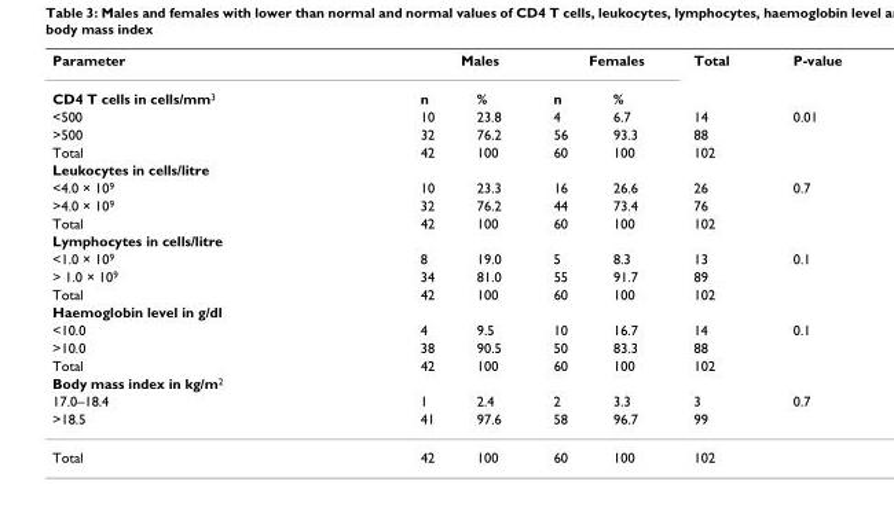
<table><thead><tr><td rowspan="20">Parameter CD4 T cells in cells/mm3 &lt;500 &gt;500 Total Leukocytes in cells/litre &lt;4.0 × 109 &gt;4.0 × 109 Total Lymphocytes in cells/litre &lt;1.0 × 109 &gt; 1.0 × 109 Total Haemoglobin level in g/dl &lt;10.0 &gt;10.0 Total Body mass index in kg/m2 17.0–18.4 &gt;18.5</td><td colspan="2">Males</td><td colspan="2">Females</td><td rowspan="20">Total 14 88 102 26 76 102 13 89 102 14 88 102 3 99</td><td rowspan="20">P-value 0.01 0.7 0.1 0.1 0.7</td></tr><tr><td rowspan="19">n 10 32 42 10 32 42 8 34 42 4 38 42 1 41</td><td rowspan="19">% 23.8 76.2 100 23.3 76.2 100 19.0 81.0 100 9.5 90.5 100 2.4 97.6</td><td rowspan="19">n 4 56 60 16 44 60 5 55 60 10 50 60 2 58</td><td rowspan="19">% 6.7 93.3 100 26.6 73.4 100 8.3 91.7 100 16.7 83.3 100 3.3 96.7</td></tr><tr></tr><tr></tr><tr></tr><tr></tr><tr></tr><tr></tr><tr></tr><tr></tr><tr></tr><tr></tr><tr></tr><tr></tr><tr></tr><tr></tr><tr></tr><tr></tr><tr></tr><tr></tr></thead><tbody><tr><td>Total</td><td>42</td><td>100</td><td>60</td><td>100</td><td>102</td><td></td></tr></tbody></table>